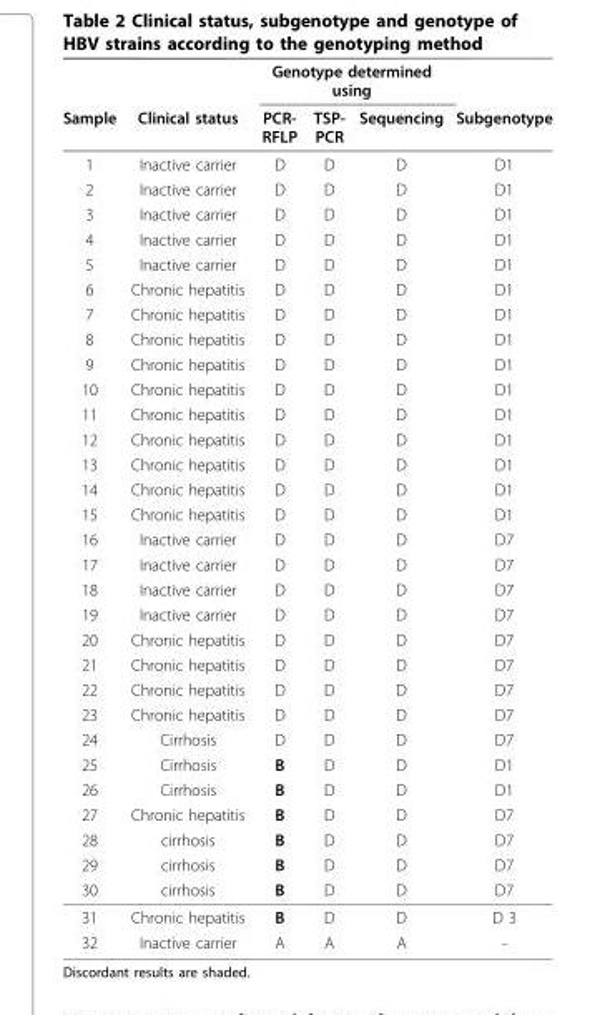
<table><thead><tr><td rowspan="2">Sample</td><td rowspan="2">Clinical status</td><td colspan="3">Genotype determined using</td><td rowspan="2">Subgenotype</td></tr><tr><td>PCR- RFLP</td><td>TSP- PCR</td><td>Sequencing</td></tr></thead><tbody><tr><td>1</td><td>Inactive carrier</td><td>D</td><td>D</td><td>D</td><td>D1</td></tr><tr><td>2</td><td>Inactive carrier</td><td>D</td><td>D</td><td>D</td><td>D1</td></tr><tr><td>3</td><td>Inactive carrier</td><td>D</td><td>D</td><td>D</td><td>D1</td></tr><tr><td>4</td><td>Inactive carrier</td><td>D</td><td>D</td><td>D</td><td>D1</td></tr><tr><td>5</td><td>Inactive carrier</td><td>D</td><td>D</td><td>D</td><td>D1</td></tr><tr><td>6</td><td>Chronic hepatitis</td><td>D</td><td>D</td><td>D</td><td>D1</td></tr><tr><td>7</td><td>Chronic hepatitis</td><td>D</td><td>D</td><td>D</td><td>D1</td></tr><tr><td>8</td><td>Chronic hepatitis</td><td>D</td><td>D</td><td>D</td><td>D1</td></tr><tr><td>9</td><td>Chronic hepatitis</td><td>D</td><td>D</td><td>D</td><td>D1</td></tr><tr><td>10</td><td>Chronic hepatitis</td><td>D</td><td>D</td><td>D</td><td>D1</td></tr><tr><td>11</td><td>Chronic hepatitis</td><td>D</td><td>D</td><td>D</td><td>D1</td></tr><tr><td>12</td><td>Chronic hepatitis</td><td>D</td><td>D</td><td>D</td><td>D1</td></tr><tr><td>13</td><td>Chronic hepatitis</td><td>D</td><td>D</td><td>D</td><td>D1</td></tr><tr><td>14</td><td>Chronic hepatitis</td><td>D</td><td>D</td><td>D</td><td>D1</td></tr><tr><td>15</td><td>Chronic hepatitis</td><td>D</td><td>D</td><td>D</td><td>D1</td></tr><tr><td>16</td><td>Inactive carrier</td><td>D</td><td>D</td><td>D</td><td>D7</td></tr><tr><td>17</td><td>Inactive carrier</td><td>D</td><td>D</td><td>D</td><td>D7</td></tr><tr><td>18</td><td>Inactive carrier</td><td>D</td><td>D</td><td>D</td><td>D7</td></tr><tr><td>19</td><td>Inactive carrier</td><td>D</td><td>D</td><td>D</td><td>D7</td></tr><tr><td>20</td><td>Chronic hepatitis</td><td>D</td><td>D</td><td>D</td><td>D7</td></tr><tr><td>21</td><td>Chronic hepatitis</td><td>D</td><td>D</td><td>D</td><td>D7</td></tr><tr><td>22</td><td>Chronic hepatitis</td><td>D</td><td>D</td><td>D</td><td>D7</td></tr><tr><td>23</td><td>Chronic hepatitis</td><td>D</td><td>D</td><td>D</td><td>D7</td></tr><tr><td>24</td><td>Cirrhosis</td><td>D</td><td>D</td><td>D</td><td>D7</td></tr><tr><td>25</td><td>Cirrhosis</td><td>B</td><td>D</td><td>D</td><td>D1</td></tr><tr><td>26</td><td>Cirrhosis</td><td>B</td><td>D</td><td>D</td><td>D1</td></tr><tr><td>27</td><td>Chronic hepatitis</td><td>B</td><td>D</td><td>D</td><td>D7</td></tr><tr><td>28</td><td>cirrhosis</td><td>B</td><td>D</td><td>D</td><td>D7</td></tr><tr><td>29</td><td>cirrhosis</td><td>B</td><td>D</td><td>D</td><td>D7</td></tr><tr><td>30</td><td>cirrhosis</td><td>B</td><td>D</td><td>D</td><td>D7</td></tr><tr><td>31</td><td>Chronic hepatitis</td><td>B</td><td>D</td><td>D</td><td>D 3</td></tr><tr><td>32</td><td>Inactive carrier</td><td>A</td><td>A</td><td>A</td><td>-</td></tr></tbody></table>